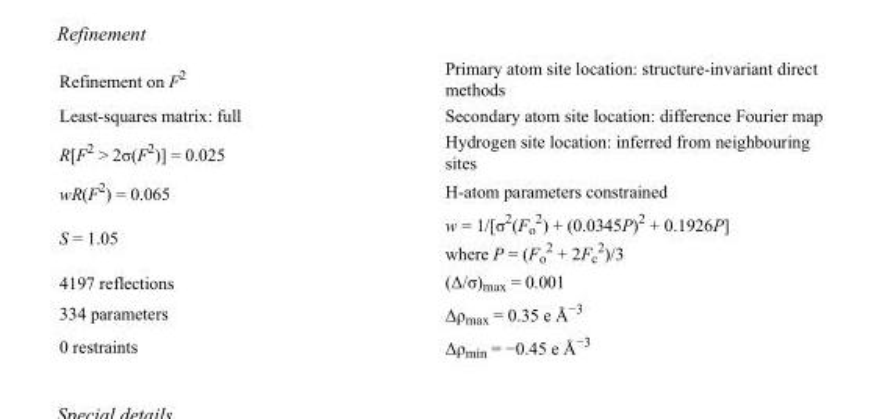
<table><tbody><tr><td>Refinement on F<sup>2</sup></td><td>Primary atom site location: structure-invariant direct methods</td></tr><tr><td>Least-squares matrix: full</td><td>Secondary atom site location: difference Fourier map</td></tr><tr><td>R[F<sup>2</sup> &gt; 2σ(F<sup>2</sup>)] = 0.025</td><td>Hydrogen site location: inferred from neighbouring sites</td></tr><tr><td>wR(F<sup>2</sup>) = 0.065</td><td>H-atom parameters constrained</td></tr><tr><td>S = 1.05</td><td>w = 1/[σ<sup>2</sup>(F<sub>o</sub> <sup>2</sup>) + (0.0345P)<sup>2</sup> + 0.1926P] where P = (F<sub>o</sub> <sup>2</sup> + 2F<sub>c</sub> <sup>2</sup>)/3</td></tr><tr><td>4197 reflections</td><td>(Δ/σ)<sub>max</sub> = 0.001</td></tr><tr><td>334 parameters</td><td>Δρ<sub>max</sub> = 0.35 e Å<sup>−3</sup></td></tr><tr><td>0 restraints</td><td>Δρ<sub>min</sub> = −0.45 e Å<sup>−3</sup></td></tr></tbody></table>